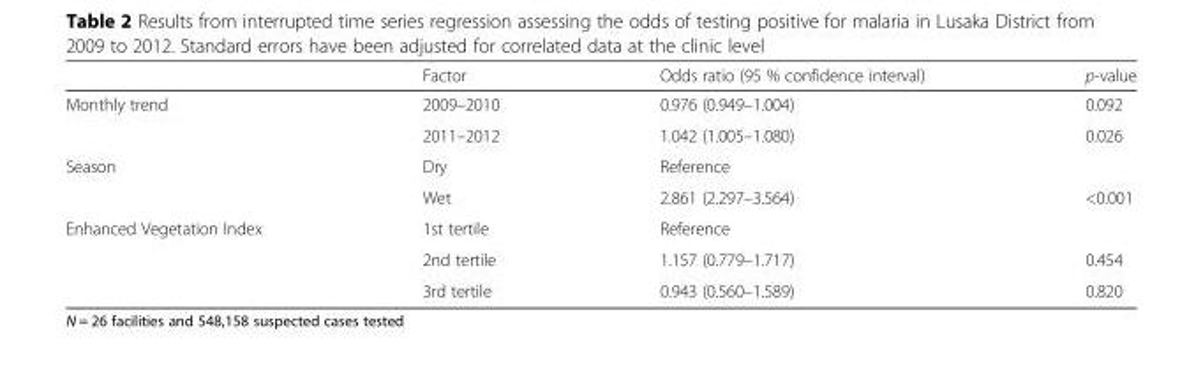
<table><thead><tr><td></td><td>Factor</td><td>Odds ratio (95 % confidence interval)</td><td>p-value</td></tr></thead><tbody><tr><td rowspan="2">Monthly trend</td><td>2009–2010</td><td>0.976 (0.949–1.004)</td><td>0.092</td></tr><tr><td>2011–2012</td><td>1.042 (1.005–1.080)</td><td>0.026</td></tr><tr><td rowspan="2">Season</td><td>Dry</td><td>Reference</td><td></td></tr><tr><td>Wet</td><td>2.861 (2.297–3.564)</td><td>&lt;0.001</td></tr><tr><td rowspan="3">Enhanced Vegetation Index</td><td>1st tertile</td><td>Reference</td><td></td></tr><tr><td>2nd tertile</td><td>1.157 (0.779–1.717)</td><td>0.454</td></tr><tr><td>3rd tertile</td><td>0.943 (0.560–1.589)</td><td>0.820</td></tr></tbody></table>